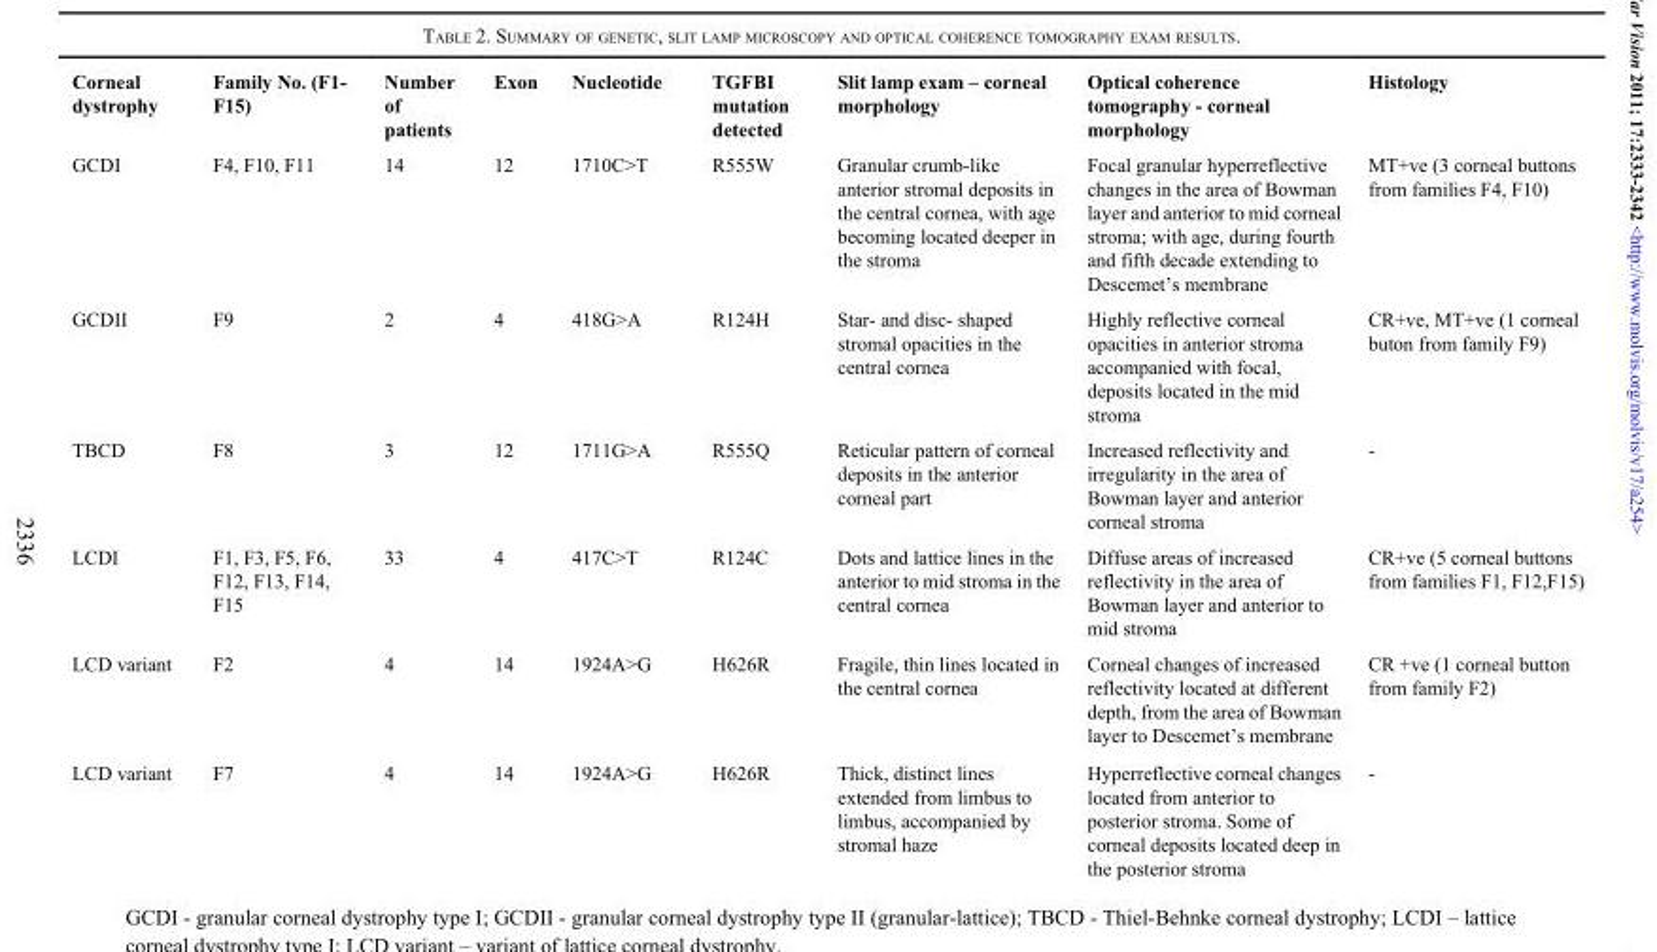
<table><thead><tr><td>Corneal dystrophy</td><td>Family No. (F1- F15)</td><td>Number of patients</td><td>Exon</td><td>Nucleotide</td><td>TGFBI mutation detected</td><td>Slit lamp exam – corneal morphology</td><td>Optical coherence tomography - corneal morphology</td><td>Histology</td></tr></thead><tbody><tr><td>GCDI</td><td>F4, F10, F11</td><td>14</td><td>12</td><td>1710C&gt;T</td><td>R555W</td><td>Granular crumb-like anterior stromal deposits in the central cornea, with age becoming located deeper in the stroma</td><td>Focal granular hyperreflective changes in the area of Bowman layer and anterior to mid corneal stroma; with age, during fourth and fifth decade extending to Descemet’s membrane</td><td>MT+ve (3 corneal buttons from families F4, F10)</td></tr><tr><td>GCDII</td><td>F9</td><td>2</td><td>4</td><td>418G&gt;A</td><td>R124H</td><td>Star- and disc- shaped stromal opacities in the central cornea</td><td>Highly reflective corneal opacities in anterior stroma accompanied with focal, deposits located in the mid stroma</td><td>CR+ve, MT+ve (1 corneal buton from family F9)</td></tr><tr><td>TBCD</td><td>F8</td><td>3</td><td>12</td><td>1711G&gt;A</td><td>R555Q</td><td>Reticular pattern of corneal deposits in the anterior corneal part</td><td>Increased reflectivity and irregularity in the area of Bowman layer and anterior corneal stroma</td><td>-</td></tr><tr><td>LCDI</td><td>F1, F3, F5, F6, F12, F13, F14, F15</td><td>33</td><td>4</td><td>417C&gt;T</td><td>R124C</td><td>Dots and lattice lines in the anterior to mid stroma in the central cornea</td><td>Diffuse areas of increased reflectivity in the area of Bowman layer and anterior to mid stroma</td><td>CR+ve (5 corneal buttons from families F1, F12,F15)</td></tr><tr><td>LCD variant</td><td>F2</td><td>4</td><td>14</td><td>1924A&gt;G</td><td>H626R</td><td>Fragile, thin lines located in the central cornea</td><td>Corneal changes of increased reflectivity located at different depth, from the area of Bowman layer to Descemet’s membrane</td><td>CR +ve (1 corneal button from family F2)</td></tr><tr><td>LCD variant</td><td>F7</td><td>4</td><td>14</td><td>1924A&gt;G</td><td>H626R</td><td>Thick, distinct lines extended from limbus to limbus, accompanied by stromal haze</td><td>Hyperreflective corneal changes located from anterior to posterior stroma. Some of corneal deposits located deep in the posterior stroma</td><td>-</td></tr></tbody></table>